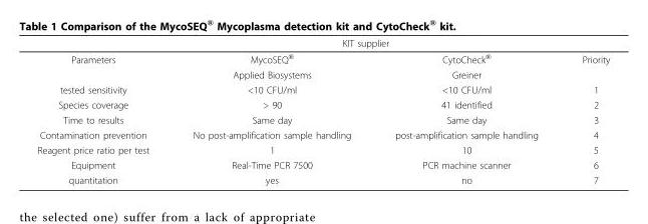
<table><thead><tr><td rowspan="2">Parameters</td><td colspan="2">KIT supplier</td><td rowspan="2">Priority</td></tr><tr><td>MycoSEQ®</td><td>CytoCheck®</td></tr></thead><tbody><tr><td></td><td>Applied Biosystems</td><td>Greiner</td><td></td></tr><tr><td>tested sensitivity</td><td>&lt;10 CFU/ml</td><td>&lt;10 CFU/ml</td><td>1</td></tr><tr><td>Species coverage</td><td>&gt; 90</td><td>41 identified</td><td>2</td></tr><tr><td>Time to results</td><td>Same day</td><td>Same day</td><td>3</td></tr><tr><td>Contamination prevention</td><td>No post-amplification sample handling</td><td>post-amplification sample handling</td><td>4</td></tr><tr><td>Reagent price ratio per test</td><td>1</td><td>10</td><td>5</td></tr><tr><td>Equipment</td><td>Real-Time PCR 7500</td><td>PCR machine scanner</td><td>6</td></tr><tr><td>quantitation</td><td>yes</td><td>no</td><td>7</td></tr></tbody></table>